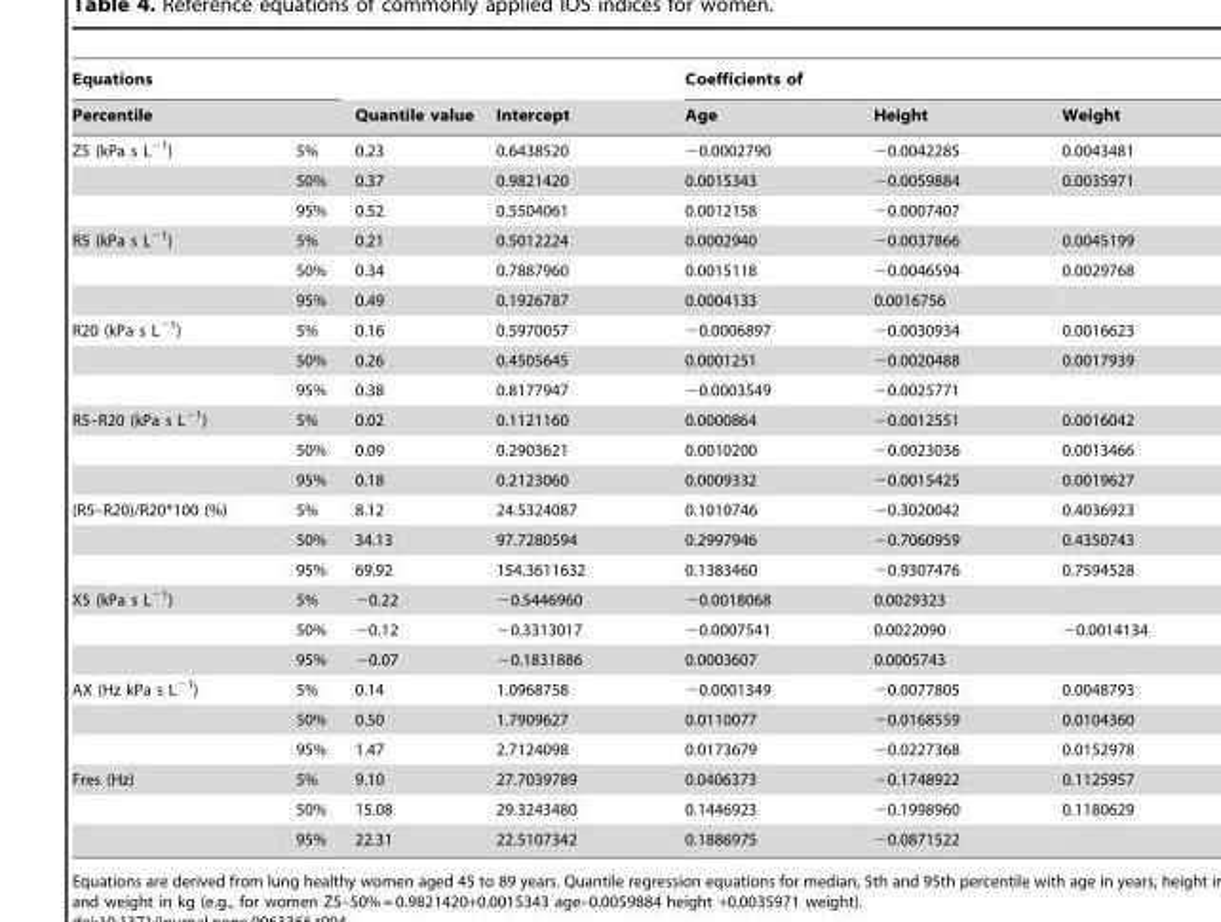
<table><thead><tr><td rowspan="2" colspan="2">Equations Percentile</td><td rowspan="3">Quantile value 0.23</td><td rowspan="3">Intercept 0.6438520</td><td colspan="3">Coefficients of</td></tr><tr><td rowspan="2">Age −0.0002790</td><td rowspan="2">Height −0.0042285</td><td rowspan="2">Weight 0.0043481</td></tr><tr><td>Z5 (kPa s L<sup>−1</sup>)</td><td>5%</td></tr></thead><tbody><tr><td></td><td>50%</td><td>0.37</td><td>0.9821420</td><td>0.0015343</td><td>−0.0059884</td><td>0.0035971</td></tr><tr><td></td><td>95%</td><td>0.52</td><td>0.5504061</td><td>0.0012158</td><td>−0.0007407</td><td></td></tr><tr><td rowspan="3">R5 (kPa s L<sup>−1</sup>)</td><td>5%</td><td>0.21</td><td>0.5012224</td><td>0.0002940</td><td>−0.0037866</td><td>0.0045199</td></tr><tr><td>50%</td><td>0.34</td><td>0.7887960</td><td>0.0015118</td><td>−0.0046594</td><td>0.0029768</td></tr><tr><td>95%</td><td>0.49</td><td>0.1926787</td><td>0.0004133</td><td>0.0016756</td><td></td></tr><tr><td rowspan="3">R20 (kPa s L<sup>−1</sup>)</td><td>5%</td><td>0.16</td><td>0.5970057</td><td>−0.0006897</td><td>−0.0030934</td><td>0.0016623</td></tr><tr><td>50%</td><td>0.26</td><td>0.4505645</td><td>0.0001251</td><td>−0.0020488</td><td>0.0017939</td></tr><tr><td>95%</td><td>0.38</td><td>0.8177947</td><td>−0.0003549</td><td>−0.0025771</td><td></td></tr><tr><td rowspan="3">R5–R20 (kPa s L<sup>−1</sup>)</td><td>5%</td><td>0.02</td><td>0.1121160</td><td>0.0000864</td><td>−0.0012551</td><td>0.0016042</td></tr><tr><td>50%</td><td>0.09</td><td>0.2903621</td><td>0.0010200</td><td>−0.0023036</td><td>0.0013466</td></tr><tr><td>95%</td><td>0.18</td><td>0.2123060</td><td>0.0009332</td><td>−0.0015425</td><td>0.0019627</td></tr><tr><td rowspan="3">(R5–R20)/R20*100 (%)</td><td>5%</td><td>8.12</td><td>24.5324087</td><td>0.1010746</td><td>−0.3020042</td><td>0.4036923</td></tr><tr><td>50%</td><td>34.13</td><td>97.7280594</td><td>0.2997946</td><td>−0.7060959</td><td>0.4350743</td></tr><tr><td>95%</td><td>69.92</td><td>154.3611632</td><td>0.1383460</td><td>−0.9307476</td><td>0.7594528</td></tr><tr><td rowspan="3">X5 (kPa s L<sup>−1</sup>)</td><td>5%</td><td>−0.22</td><td>−0.5446960</td><td>−0.0018068</td><td>0.0029323</td><td></td></tr><tr><td>50%</td><td>−0.12</td><td>−0.3313017</td><td>−0.0007541</td><td>0.0022090</td><td>−0.0014134</td></tr><tr><td>95%</td><td>−0.07</td><td>−0.1831886</td><td>0.0003607</td><td>0.0005743</td><td></td></tr><tr><td rowspan="3">AX (Hz kPa s L<sup>−1</sup>)</td><td>5%</td><td>0.14</td><td>1.0968758</td><td>−0.0001349</td><td>−0.0077805</td><td>0.0048793</td></tr><tr><td>50%</td><td>0.50</td><td>1.7909627</td><td>0.0110077</td><td>−0.0168559</td><td>0.0104360</td></tr><tr><td>95%</td><td>1.47</td><td>2.7124098</td><td>0.0173679</td><td>−0.0227368</td><td>0.0152978</td></tr><tr><td rowspan="3">Fres (Hz)</td><td>5%</td><td>9.10</td><td>27.7039789</td><td>0.0406373</td><td>−0.1748922</td><td>0.1125957</td></tr><tr><td>50%</td><td>15.08</td><td>29.3243480</td><td>0.1446923</td><td>−0.1998960</td><td>0.1180629</td></tr><tr><td>95%</td><td>22.31</td><td>22.5107342</td><td>0.1886975</td><td>−0.0871522</td><td></td></tr></tbody></table>